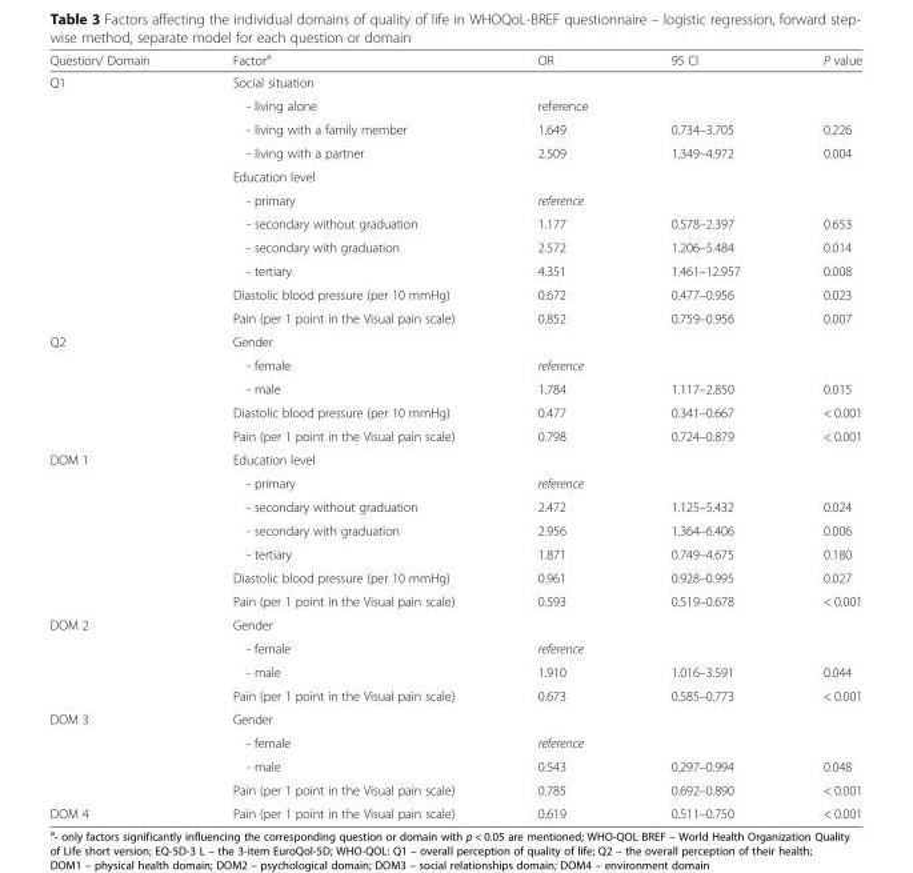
<table><thead><tr><td>Question/ Domain</td><td>Factor<sup>a</sup></td><td>OR</td><td>95 CI</td><td>P value</td></tr></thead><tbody><tr><td rowspan="11">Q1</td><td colspan="4">Social situation</td></tr><tr><td>- living alone</td><td>reference</td><td></td><td></td></tr><tr><td>- living with a family member</td><td>1.649</td><td>0.734–3.705</td><td>0.226</td></tr><tr><td>- living with a partner</td><td>2.509</td><td>1.349–4.972</td><td>0.004</td></tr><tr><td colspan="4">Education level</td></tr><tr><td>- primary</td><td>reference</td><td></td><td></td></tr><tr><td>- secondary without graduation</td><td>1.177</td><td>0.578–2.397</td><td>0.653</td></tr><tr><td>- secondary with graduation</td><td>2.572</td><td>1.206–5.484</td><td>0.014</td></tr><tr><td>- tertiary</td><td>4.351</td><td>1.461–12.957</td><td>0.008</td></tr><tr><td>Diastolic blood pressure (per 10 mmHg)</td><td>0.672</td><td>0.477–0.956</td><td>0.023</td></tr><tr><td>Pain (per 1 point in the Visual pain scale)</td><td>0.852</td><td>0.759–0.956</td><td>0.007</td></tr><tr><td rowspan="5">Q2</td><td colspan="4">Gender</td></tr><tr><td>- female</td><td>reference</td><td></td><td></td></tr><tr><td>- male</td><td>1.784</td><td>1.117–2.850</td><td>0.015</td></tr><tr><td>Diastolic blood pressure (per 10 mmHg)</td><td>0.477</td><td>0.341–0.667</td><td>&lt; 0.001</td></tr><tr><td>Pain (per 1 point in the Visual pain scale)</td><td>0.798</td><td>0.724–0.879</td><td>&lt; 0.001</td></tr><tr><td rowspan="7">DOM 1</td><td colspan="4">Education level</td></tr><tr><td>- primary</td><td>reference</td><td></td><td></td></tr><tr><td>- secondary without graduation</td><td>2.472</td><td>1.125–5.432</td><td>0.024</td></tr><tr><td>- secondary with graduation</td><td>2.956</td><td>1.364–6.406</td><td>0.006</td></tr><tr><td>- tertiary</td><td>1.871</td><td>0.749–4.675</td><td>0.180</td></tr><tr><td>Diastolic blood pressure (per 10 mmHg)</td><td>0.961</td><td>0.928–0.995</td><td>0.027</td></tr><tr><td>Pain (per 1 point in the Visual pain scale)</td><td>0.593</td><td>0.519–0.678</td><td>&lt; 0.001</td></tr><tr><td rowspan="4">DOM 2</td><td colspan="4">Gender</td></tr><tr><td>- female</td><td>reference</td><td></td><td></td></tr><tr><td>- male</td><td>1.910</td><td>1.016–3.591</td><td>0.044</td></tr><tr><td>Pain (per 1 point in the Visual pain scale)</td><td>0.673</td><td>0.585–0.773</td><td>&lt; 0.001</td></tr><tr><td rowspan="4">DOM 3</td><td colspan="4">Gender</td></tr><tr><td>- female</td><td>reference</td><td></td><td></td></tr><tr><td>- male</td><td>0.543</td><td>0.297–0.994</td><td>0.048</td></tr><tr><td>Pain (per 1 point in the Visual pain scale)</td><td>0.785</td><td>0.692–0.890</td><td>&lt; 0.001</td></tr><tr><td>DOM 4</td><td>Pain (per 1 point in the Visual pain scale)</td><td>0.619</td><td>0.511–0.750</td><td>&lt; 0.001</td></tr></tbody></table>